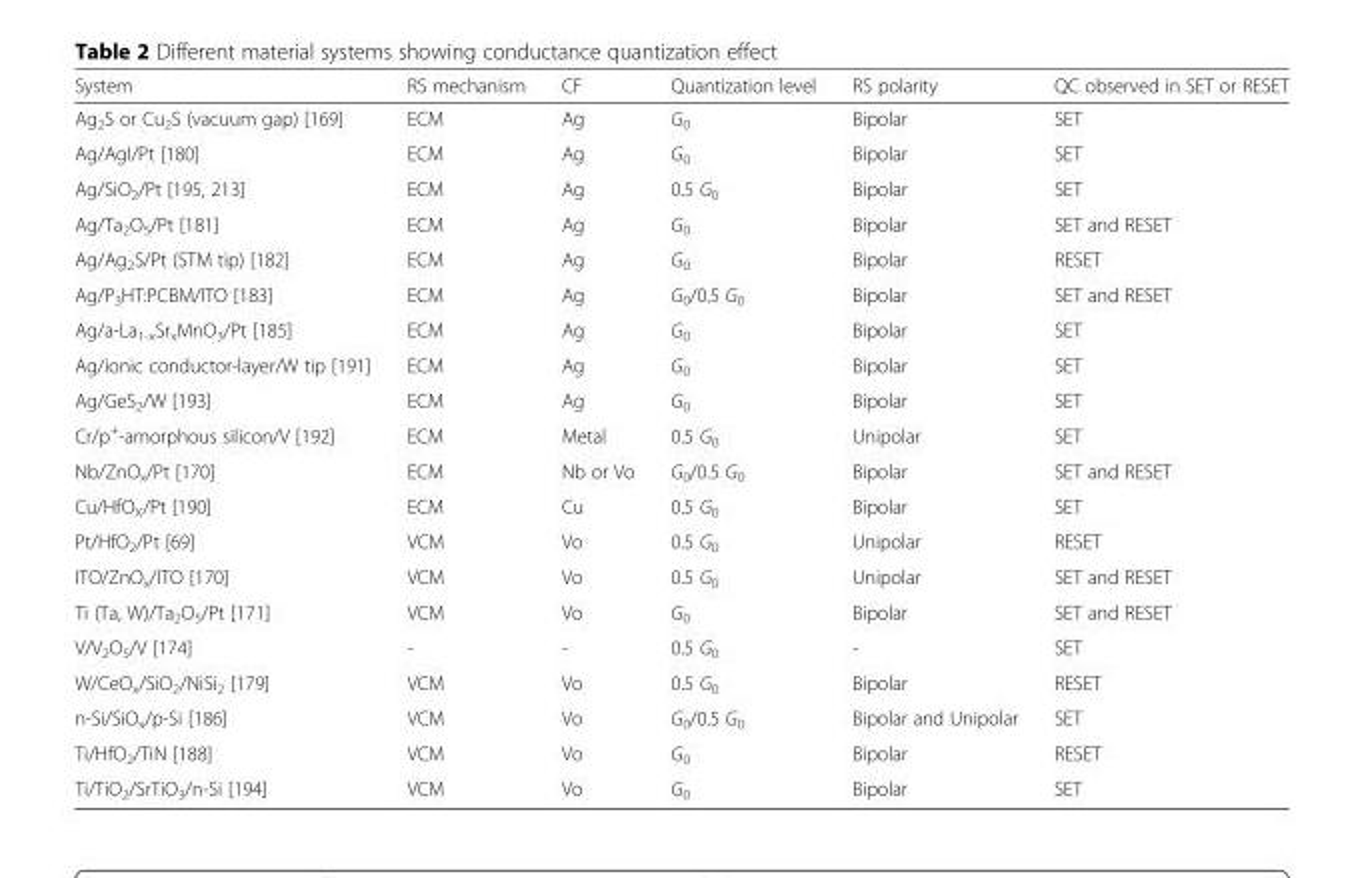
<table><thead><tr><td>System</td><td>RS mechanism</td><td>CF</td><td>Quantization level</td><td>RS polarity</td><td>QC observed in SET or RESET</td></tr></thead><tbody><tr><td>Ag<sub>2</sub>S or Cu<sub>2</sub>S (vacuum gap) [169]</td><td>ECM</td><td>Ag</td><td>G<sub>0</sub></td><td>Bipolar</td><td>SET</td></tr><tr><td>Ag/AgI/Pt [180]</td><td>ECM</td><td>Ag</td><td>G<sub>0</sub></td><td>Bipolar</td><td>SET</td></tr><tr><td>Ag/SiO<sub>2</sub>/Pt [195, 213]</td><td>ECM</td><td>Ag</td><td>0.5 G<sub>0</sub></td><td>Bipolar</td><td>SET</td></tr><tr><td>Ag/Ta<sub>2</sub>O<sub>5</sub>/Pt [181]</td><td>ECM</td><td>Ag</td><td>G<sub>0</sub></td><td>Bipolar</td><td>SET and RESET</td></tr><tr><td>Ag/Ag<sub>2</sub>S/Pt (STM tip) [182]</td><td>ECM</td><td>Ag</td><td>G<sub>0</sub></td><td>Bipolar</td><td>RESET</td></tr><tr><td>Ag/P<sub>3</sub>HT:PCBM/ITO [183]</td><td>ECM</td><td>Ag</td><td>G<sub>0</sub>/0.5 G<sub>0</sub></td><td>Bipolar</td><td>SET and RESET</td></tr><tr><td>Ag/a-La<sub>1-x</sub>Sr<sub>x</sub>MnO<sub>3</sub>/Pt [185]</td><td>ECM</td><td>Ag</td><td>G<sub>0</sub></td><td>Bipolar</td><td>SET</td></tr><tr><td>Ag/ionic conductor-layer/W tip [191]</td><td>ECM</td><td>Ag</td><td>G<sub>0</sub></td><td>Bipolar</td><td>SET</td></tr><tr><td>Ag/GeS<sub>2</sub>/W [193]</td><td>ECM</td><td>Ag</td><td>G<sub>0</sub></td><td>Bipolar</td><td>SET</td></tr><tr><td>Cr/p<sup>+</sup>-amorphous silicon/V [192]</td><td>ECM</td><td>Metal</td><td>0.5 G<sub>0</sub></td><td>Unipolar</td><td>SET</td></tr><tr><td>Nb/ZnO<sub>x</sub>/Pt [170]</td><td>ECM</td><td>Nb or Vo</td><td>G<sub>0</sub>/0.5 G<sub>0</sub></td><td>Bipolar</td><td>SET and RESET</td></tr><tr><td>Cu/HfO<sub>X</sub>/Pt [190]</td><td>ECM</td><td>Cu</td><td>0.5 G<sub>0</sub></td><td>Bipolar</td><td>SET</td></tr><tr><td>Pt/HfO<sub>2</sub>/Pt [69]</td><td>VCM</td><td>Vo</td><td>0.5 G<sub>0</sub></td><td>Unipolar</td><td>RESET</td></tr><tr><td>ITO/ZnO<sub>x</sub>/ITO [170]</td><td>VCM</td><td>Vo</td><td>0.5 G<sub>0</sub></td><td>Unipolar</td><td>SET and RESET</td></tr><tr><td>Ti (Ta, W)/Ta<sub>2</sub>O<sub>5</sub>/Pt [171]</td><td>VCM</td><td>Vo</td><td>G<sub>0</sub></td><td>Bipolar</td><td>SET and RESET</td></tr><tr><td>V/V<sub>2</sub>O<sub>5</sub>/V [174]</td><td>-</td><td>-</td><td>0.5 G<sub>0</sub></td><td>-</td><td>SET</td></tr><tr><td>W/CeO<sub>x</sub>/SiO<sub>2</sub>/NiSi<sub>2</sub> [179]</td><td>VCM</td><td>Vo</td><td>0.5 G<sub>0</sub></td><td>Bipolar</td><td>RESET</td></tr><tr><td>n-Si/SiO<sub>x</sub>/p-Si [186]</td><td>VCM</td><td>Vo</td><td>G<sub>0</sub>/0.5 G<sub>0</sub></td><td>Bipolar and Unipolar</td><td>SET</td></tr><tr><td>Ti/HfO<sub>2</sub>/TiN [188]</td><td>VCM</td><td>Vo</td><td>G<sub>0</sub></td><td>Bipolar</td><td>RESET</td></tr><tr><td>Ti/TiO<sub>2</sub>/SrTiO<sub>3</sub>/n-Si [194]</td><td>VCM</td><td>Vo</td><td>G<sub>0</sub></td><td>Bipolar</td><td>SET</td></tr></tbody></table>